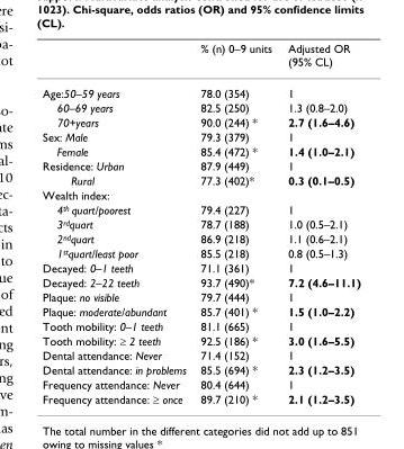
<table><thead><tr><td></td><td>% (n) 0–9 units</td><td>Adjusted OR (95% CL)</td></tr></thead><tbody><tr><td>Age:50–59 years</td><td>78.0 (354)</td><td>1</td></tr><tr><td>60–69 years</td><td>82.5 (250)</td><td>1.3 (0.8–2.0)</td></tr><tr><td>70+years</td><td>90.0 (244) *</td><td>2.7 (1.6–4.6)</td></tr><tr><td>Sex: Male</td><td>79.3 (379)</td><td>1</td></tr><tr><td>Female</td><td>85.4 (472) *</td><td>1.4 (1.0–2.1)</td></tr><tr><td>Residence: Urban</td><td>87.9 (449)</td><td>1</td></tr><tr><td>Rural</td><td>77.3 (402)*</td><td>0.3 (0.1–0.5)</td></tr><tr><td colspan="3">Wealth index:</td></tr><tr><td>4<sup>th</sup> quart/poorest</td><td>79.4 (227)</td><td>1</td></tr><tr><td>3<sup>rd</sup>quart</td><td>78.7 (188)</td><td>1.0 (0.5–2.1)</td></tr><tr><td>2<sup>nd</sup>quart</td><td>86.9 (218)</td><td>1.1 (0.6–2.1)</td></tr><tr><td>1<sup>st</sup>quart/least poor</td><td>85.5 (218)</td><td>0.8 (0.5–1.3)</td></tr><tr><td>Decayed: 0–1 teeth</td><td>71.1 (361)</td><td>1</td></tr><tr><td>Decayed: 2–22 teeth</td><td>93.7 (490)*</td><td>7.2 (4.6–11.1)</td></tr><tr><td>Plaque: no visible</td><td>79.7 (444)</td><td>1</td></tr><tr><td>Plaque: moderate/abundant</td><td>85.7 (401) *</td><td>1.5 (1.0–2.2)</td></tr><tr><td>Tooth mobility: 0–1 teeth</td><td>81.1 (665)</td><td>1</td></tr><tr><td>Tooth mobility: ≥ 2 teeth</td><td>92.5 (186) *</td><td>3.0 (1.6–5.5)</td></tr><tr><td>Dental attendance: Never</td><td>71.4 (152)</td><td>1</td></tr><tr><td>Dental attendance: in problems</td><td>85.5 (694) *</td><td>2.3 (1.2–3.5)</td></tr><tr><td>Frequency attendance: Never</td><td>80.4 (644)</td><td>1</td></tr><tr><td>Frequency attendance: ≥ once</td><td>89.7 (210) *</td><td>2.1 (1.2–3.5)</td></tr></tbody></table>